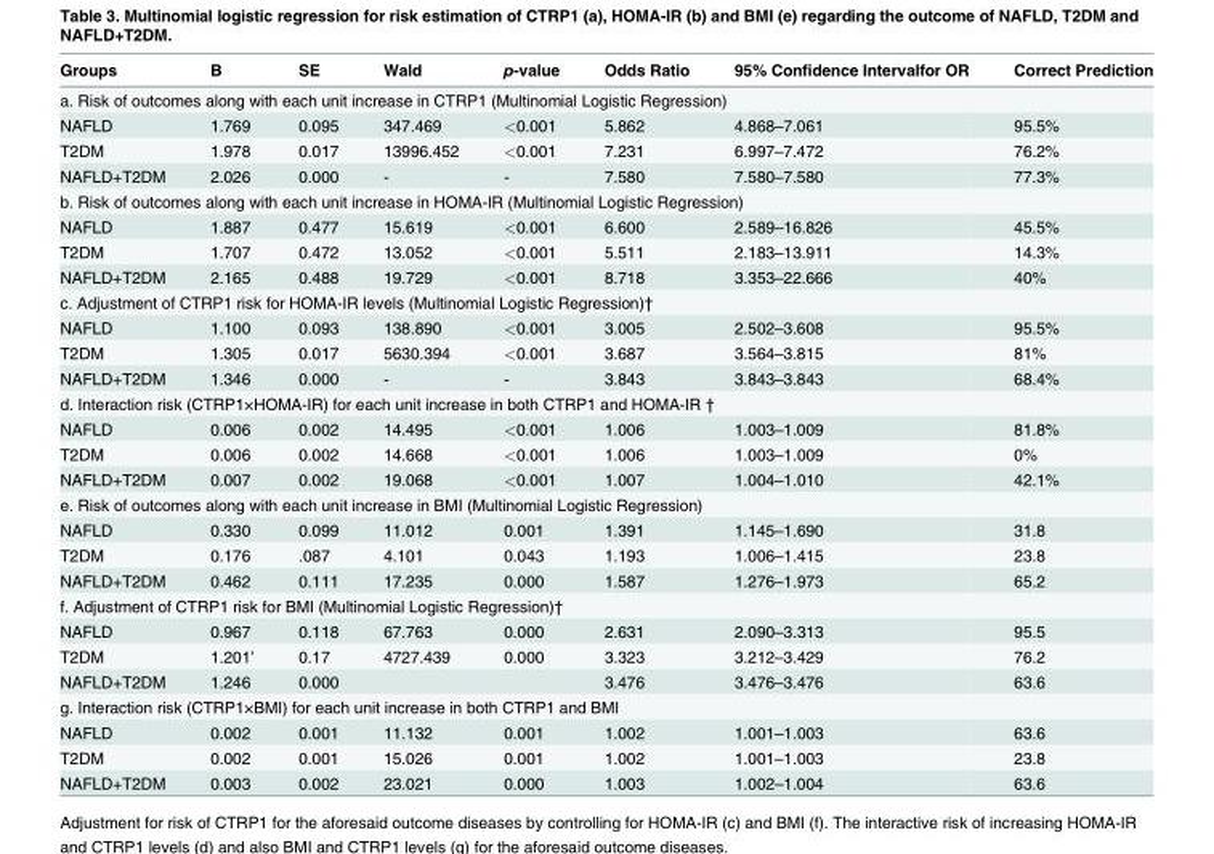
<table><thead><tr><td>Groups</td><td>B</td><td>SE</td><td>Wald</td><td>p-value</td><td>Odds Ratio</td><td>95% Confidence Intervalfor OR</td><td>Correct Prediction</td></tr></thead><tbody><tr><td colspan="8">a. Risk of outcomes along with each unit increase in CTRP1 (Multinomial Logistic Regression)</td></tr><tr><td>NAFLD</td><td>1.769</td><td>0.095</td><td>347.469</td><td>&lt;0.001</td><td>5.862</td><td>4.868–7.061</td><td>95.5%</td></tr><tr><td>T2DM</td><td>1.978</td><td>0.017</td><td>13996.452</td><td>&lt;0.001</td><td>7.231</td><td>6.997–7.472</td><td>76.2%</td></tr><tr><td>NAFLD+T2DM</td><td>2.026</td><td>0.000</td><td>-</td><td>-</td><td>7.580</td><td>7.580–7.580</td><td>77.3%</td></tr><tr><td colspan="8">b. Risk of outcomes along with each unit increase in HOMA-IR (Multinomial Logistic Regression)</td></tr><tr><td>NAFLD</td><td>1.887</td><td>0.477</td><td>15.619</td><td>&lt;0.001</td><td>6.600</td><td>2.589–16.826</td><td>45.5%</td></tr><tr><td>T2DM</td><td>1.707</td><td>0.472</td><td>13.052</td><td>&lt;0.001</td><td>5.511</td><td>2.183–13.911</td><td>14.3%</td></tr><tr><td>NAFLD+T2DM</td><td>2.165</td><td>0.488</td><td>19.729</td><td>&lt;0.001</td><td>8.718</td><td>3.353–22.666</td><td>40%</td></tr><tr><td colspan="8">c. Adjustment of CTRP1 risk for HOMA-IR levels (Multinomial Logistic Regression)†</td></tr><tr><td>NAFLD</td><td>1.100</td><td>0.093</td><td>138.890</td><td>&lt;0.001</td><td>3.005</td><td>2.502–3.608</td><td>95.5%</td></tr><tr><td>T2DM</td><td>1.305</td><td>0.017</td><td>5630.394</td><td>&lt;0.001</td><td>3.687</td><td>3.564–3.815</td><td>81%</td></tr><tr><td>NAFLD+T2DM</td><td>1.346</td><td>0.000</td><td>-</td><td>-</td><td>3.843</td><td>3.843–3.843</td><td>68.4%</td></tr><tr><td colspan="8">d. Interaction risk (CTRP1×HOMA-IR) for each unit increase in both CTRP1 and HOMA-IR †</td></tr><tr><td>NAFLD</td><td>0.006</td><td>0.002</td><td>14.495</td><td>&lt;0.001</td><td>1.006</td><td>1.003–1.009</td><td>81.8%</td></tr><tr><td>T2DM</td><td>0.006</td><td>0.002</td><td>14.668</td><td>&lt;0.001</td><td>1.006</td><td>1.003–1.009</td><td>0%</td></tr><tr><td>NAFLD+T2DM</td><td>0.007</td><td>0.002</td><td>19.068</td><td>&lt;0.001</td><td>1.007</td><td>1.004–1.010</td><td>42.1%</td></tr><tr><td colspan="8">e. Risk of outcomes along with each unit increase in BMI (Multinomial Logistic Regression)</td></tr><tr><td>NAFLD</td><td>0.330</td><td>0.099</td><td>11.012</td><td>0.001</td><td>1.391</td><td>1.145–1.690</td><td>31.8</td></tr><tr><td>T2DM</td><td>0.176</td><td>.087</td><td>4.101</td><td>0.043</td><td>1.193</td><td>1.006–1.415</td><td>23.8</td></tr><tr><td>NAFLD+T2DM</td><td>0.462</td><td>0.111</td><td>17.235</td><td>0.000</td><td>1.587</td><td>1.276–1.973</td><td>65.2</td></tr><tr><td colspan="8">f. Adjustment of CTRP1 risk for BMI (Multinomial Logistic Regression)†</td></tr><tr><td>NAFLD</td><td>0.967</td><td>0.118</td><td>67.763</td><td>0.000</td><td>2.631</td><td>2.090–3.313</td><td>95.5</td></tr><tr><td>T2DM</td><td>1.201’</td><td>0.17</td><td>4727.439</td><td>0.000</td><td>3.323</td><td>3.212–3.429</td><td>76.2</td></tr><tr><td>NAFLD+T2DM</td><td>1.246</td><td>0.000</td><td></td><td></td><td>3.476</td><td>3.476–3.476</td><td>63.6</td></tr><tr><td colspan="8">g. Interaction risk (CTRP1×BMI) for each unit increase in both CTRP1 and BMI</td></tr><tr><td>NAFLD</td><td>0.002</td><td>0.001</td><td>11.132</td><td>0.001</td><td>1.002</td><td>1.001–1.003</td><td>63.6</td></tr><tr><td>T2DM</td><td>0.002</td><td>0.001</td><td>15.026</td><td>0.001</td><td>1.002</td><td>1.001–1.003</td><td>23.8</td></tr><tr><td>NAFLD+T2DM</td><td>0.003</td><td>0.002</td><td>23.021</td><td>0.000</td><td>1.003</td><td>1.002–1.004</td><td>63.6</td></tr></tbody></table>